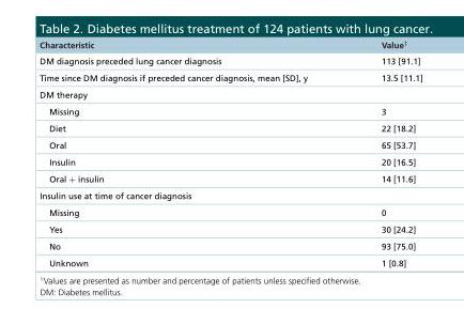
<table><thead><tr><td>Characteristic</td><td>Value<sup>†</sup></td></tr></thead><tbody><tr><td>DM diagnosis preceded lung cancer diagnosis</td><td>113 [91.1]</td></tr><tr><td>Time since DM diagnosis if preceded cancer diagnosis, mean [SD], y</td><td>13.5 [11.1]</td></tr><tr><td colspan="2">DM therapy</td></tr><tr><td>Missing</td><td>3</td></tr><tr><td>Diet</td><td>22 [18.2]</td></tr><tr><td>Oral</td><td>65 [53.7]</td></tr><tr><td>Insulin</td><td>20 [16.5]</td></tr><tr><td>Oral + insulin</td><td>14 [11.6]</td></tr><tr><td colspan="2">Insulin use at time of cancer diagnosis</td></tr><tr><td>Missing</td><td>0</td></tr><tr><td>Yes</td><td>30 [24.2]</td></tr><tr><td>No</td><td>93 [75.0]</td></tr><tr><td>Unknown</td><td>1 [0.8]</td></tr></tbody></table>